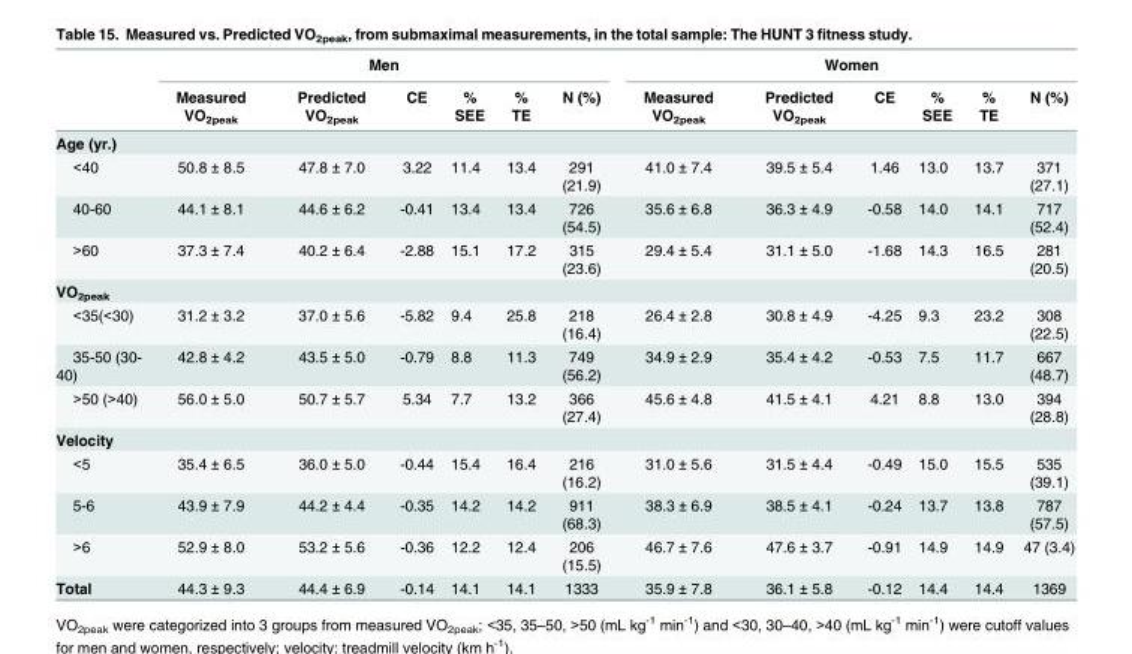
<table><thead><tr><td rowspan="2"></td><td colspan="6">Men</td><td colspan="6">Women</td></tr><tr><td>Measured VO<sub>2peak</sub></td><td>Predicted VO<sub>2peak</sub></td><td>CE</td><td>% SEE</td><td>% TE</td><td>N (%)</td><td>Measured VO<sub>2peak</sub></td><td>Predicted VO<sub>2peak</sub></td><td>CE</td><td>% SEE</td><td>% TE</td><td>N (%)</td></tr></thead><tbody><tr><td colspan="13">Age (yr.)</td></tr><tr><td>&lt;40</td><td>50.8 ± 8.5</td><td>47.8 ± 7.0</td><td>3.22</td><td>11.4</td><td>13.4</td><td>291 (21.9)</td><td>41.0 ± 7.4</td><td>39.5 ± 5.4</td><td>1.46</td><td>13.0</td><td>13.7</td><td>371 (27.1)</td></tr><tr><td>40-60</td><td>44.1 ± 8.1</td><td>44.6 ± 6.2</td><td>-0.41</td><td>13.4</td><td>13.4</td><td>726 (54.5)</td><td>35.6 ± 6.8</td><td>36.3 ± 4.9</td><td>-0.58</td><td>14.0</td><td>14.1</td><td>717 (52.4)</td></tr><tr><td>&gt;60</td><td>37.3 ± 7.4</td><td>40.2 ± 6.4</td><td>-2.88</td><td>15.1</td><td>17.2</td><td>315 (23.6)</td><td>29.4 ± 5.4</td><td>31.1 ± 5.0</td><td>-1.68</td><td>14.3</td><td>16.5</td><td>281 (20.5)</td></tr><tr><td colspan="13">VO<sub>2peak</sub></td></tr><tr><td>&lt;35(&lt;30)</td><td>31.2 ± 3.2</td><td>37.0 ± 5.6</td><td>-5.82</td><td>9.4</td><td>25.8</td><td>218 (16.4)</td><td>26.4 ± 2.8</td><td>30.8 ± 4.9</td><td>-4.25</td><td>9.3</td><td>23.2</td><td>308 (22.5)</td></tr><tr><td>35-50 (30- 40)</td><td>42.8 ± 4.2</td><td>43.5 ± 5.0</td><td>-0.79</td><td>8.8</td><td>11.3</td><td>749 (56.2)</td><td>34.9 ± 2.9</td><td>35.4 ± 4.2</td><td>-0.53</td><td>7.5</td><td>11.7</td><td>667 (48.7)</td></tr><tr><td>&gt;50 (&gt;40)</td><td>56.0 ± 5.0</td><td>50.7 ± 5.7</td><td>5.34</td><td>7.7</td><td>13.2</td><td>366 (27.4)</td><td>45.6 ± 4.8</td><td>41.5 ± 4.1</td><td>4.21</td><td>8.8</td><td>13.0</td><td>394 (28.8)</td></tr><tr><td colspan="13">Velocity</td></tr><tr><td>&lt;5</td><td>35.4 ± 6.5</td><td>36.0 ± 5.0</td><td>-0.44</td><td>15.4</td><td>16.4</td><td>216 (16.2)</td><td>31.0 ± 5.6</td><td>31.5 ± 4.4</td><td>-0.49</td><td>15.0</td><td>15.5</td><td>535 (39.1)</td></tr><tr><td>5-6</td><td>43.9 ± 7.9</td><td>44.2 ± 4.4</td><td>-0.35</td><td>14.2</td><td>14.2</td><td>911 (68.3)</td><td>38.3 ± 6.9</td><td>38.5 ± 4.1</td><td>-0.24</td><td>13.7</td><td>13.8</td><td>787 (57.5)</td></tr><tr><td>&gt;6</td><td>52.9 ± 8.0</td><td>53.2 ± 5.6</td><td>-0.36</td><td>12.2</td><td>12.4</td><td>206 (15.5)</td><td>46.7 ± 7.6</td><td>47.6 ± 3.7</td><td>-0.91</td><td>14.9</td><td>14.9</td><td>47 (3.4)</td></tr><tr><td>Total</td><td>44.3 ± 9.3</td><td>44.4 ± 6.9</td><td>-0.14</td><td>14.1</td><td>14.1</td><td>1333</td><td>35.9 ± 7.8</td><td>36.1 ± 5.8</td><td>-0.12</td><td>14.4</td><td>14.4</td><td>1369</td></tr></tbody></table>